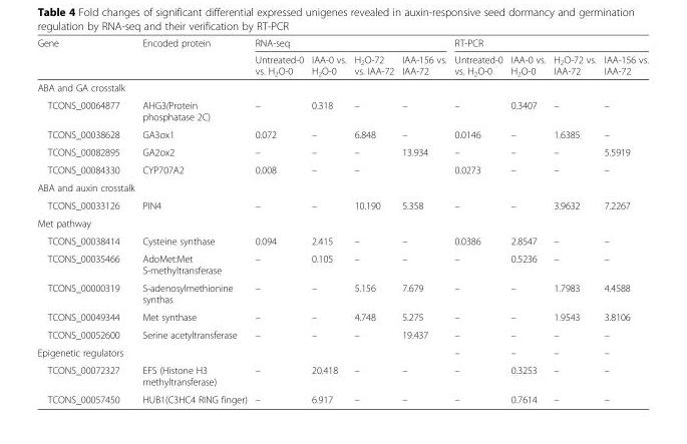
<table><thead><tr><td rowspan="2">Gene</td><td rowspan="2">Encoded protein</td><td colspan="4">RNA-seq</td><td colspan="4">RT-PCR</td></tr><tr><td>Untreated-0 vs. H<sub>2</sub>O-0</td><td>IAA-0 vs. H<sub>2</sub>O-0</td><td>H<sub>2</sub>O-72 vs. IAA-72</td><td>IAA-156 vs. IAA-72</td><td>Untreated-0 vs. H<sub>2</sub>O-0</td><td>IAA-0 vs. H<sub>2</sub>O-0</td><td>H<sub>2</sub>O-72 vs. IAA-72</td><td>IAA-156 vs. IAA-72</td></tr></thead><tbody><tr><td colspan="10">ABA and GA crosstalk</td></tr><tr><td>TCONS_00064877</td><td>AHG3(Protein phosphatase 2C)</td><td>–</td><td>0.318</td><td>–</td><td>–</td><td>–</td><td>0.3407</td><td>–</td><td>–</td></tr><tr><td>TCONS_00038628</td><td>GA3ox1</td><td>0.072</td><td>–</td><td>6.848</td><td>–</td><td>0.0146</td><td>–</td><td>1.6385</td><td>–</td></tr><tr><td>TCONS_00082895</td><td>GA2ox2</td><td>–</td><td>–</td><td>–</td><td>13.934</td><td>–</td><td>–</td><td>–</td><td>5.5919</td></tr><tr><td>TCONS_00084330</td><td>CYP707A2</td><td>0.008</td><td>–</td><td>–</td><td></td><td>0.0273</td><td>–</td><td>–</td><td>–</td></tr><tr><td colspan="10">ABA and auxin crosstalk</td></tr><tr><td>TCONS_00033126</td><td>PIN4</td><td>–</td><td>–</td><td>10.190</td><td>5.358</td><td>–</td><td>–</td><td>3.9632</td><td>7.2267</td></tr><tr><td colspan="10">Met pathway</td></tr><tr><td>TCONS_00038414</td><td>Cysteine synthase</td><td>0.094</td><td>2.415</td><td>–</td><td>–</td><td>0.0386</td><td>2.8547</td><td>–</td><td>–</td></tr><tr><td>TCONS_00035466</td><td>AdoMet:Met S-methyltransferase</td><td>–</td><td>0.105</td><td>–</td><td>–</td><td>–</td><td>0.5236</td><td>–</td><td>–</td></tr><tr><td>TCONS_00000319</td><td>S-adenosylmethionine synthas</td><td>–</td><td>–</td><td>5.156</td><td>7.679</td><td>–</td><td>–</td><td>1.7983</td><td>4.4588</td></tr><tr><td>TCONS_00049344</td><td>Met synthase</td><td>–</td><td>–</td><td>4.748</td><td>5.275</td><td>–</td><td>–</td><td>1.9543</td><td>3.8106</td></tr><tr><td>TCONS_00052600</td><td>Serine acetyltransferase</td><td>–</td><td>–</td><td>–</td><td>19.437</td><td>–</td><td>–</td><td>–</td><td>–</td></tr><tr><td>Epigenetic regulators</td><td></td><td></td><td></td><td></td><td></td><td>–</td><td>–</td><td>–</td><td>–</td></tr><tr><td>TCONS_00072327</td><td>EFS (Histone H3 methyltransferase)</td><td>–</td><td>20.418</td><td>–</td><td>–</td><td>–</td><td>0.3253</td><td>–</td><td>–</td></tr><tr><td>TCONS_00057450</td><td>HUB1(C3HC4 RING finger)</td><td>–</td><td>6.917</td><td>–</td><td>–</td><td>–</td><td>0.7614</td><td>–</td><td>–</td></tr></tbody></table>